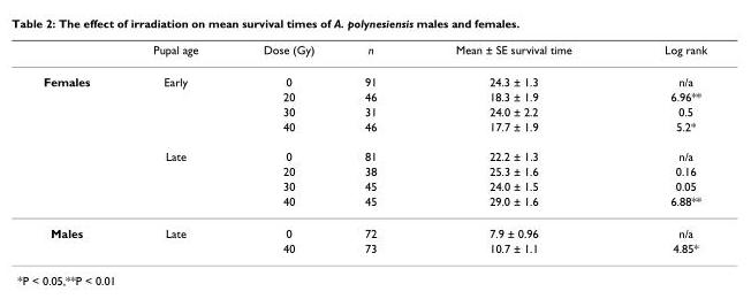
<table><thead><tr><td></td><td>Pupal age</td><td>Dose (Gy)</td><td>n</td><td>Mean ± SE survival time</td><td>Log rank</td></tr></thead><tbody><tr><td rowspan="8">Females</td><td>Early</td><td>0</td><td>91</td><td>24.3 ± 1.3</td><td>n/a</td></tr><tr><td></td><td>20</td><td>46</td><td>18.3 ± 1.9</td><td>6.96**</td></tr><tr><td></td><td>30</td><td>31</td><td>24.0 ± 2.2</td><td>0.5</td></tr><tr><td></td><td>40</td><td>46</td><td>17.7 ± 1.9</td><td>5.2*</td></tr><tr><td>Late</td><td>0</td><td>81</td><td>22.2 ± 1.3</td><td>n/a</td></tr><tr><td></td><td>20</td><td>38</td><td>25.3 ± 1.6</td><td>0.16</td></tr><tr><td></td><td>30</td><td>45</td><td>24.0 ± 1.5</td><td>0.05</td></tr><tr><td></td><td>40</td><td>45</td><td>29.0 ± 1.6</td><td>6.88**</td></tr><tr><td rowspan="2">Males</td><td>Late</td><td>0</td><td>72</td><td>7.9 ± 0.96</td><td>n/a</td></tr><tr><td></td><td>40</td><td>73</td><td>10.7 ± 1.1</td><td>4.85*</td></tr></tbody></table>